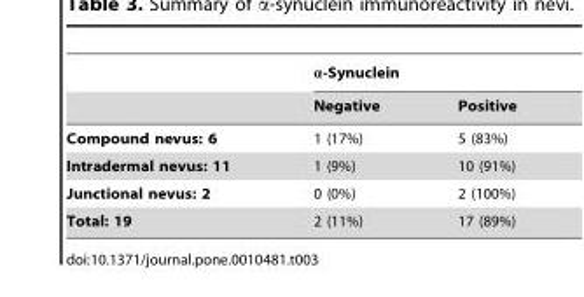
<table><thead><tr><td rowspan="2"></td><td colspan="2">α-Synuclein</td></tr><tr><td>Negative</td><td>Positive</td></tr></thead><tbody><tr><td>Compound nevus: 6</td><td>1 (17%)</td><td>5 (83%)</td></tr><tr><td>Intradermal nevus: 11</td><td>1 (9%)</td><td>10 (91%)</td></tr><tr><td>Junctional nevus: 2</td><td>0 (0%)</td><td>2 (100%)</td></tr><tr><td>Total: 19</td><td>2 (11%)</td><td>17 (89%)</td></tr></tbody></table>